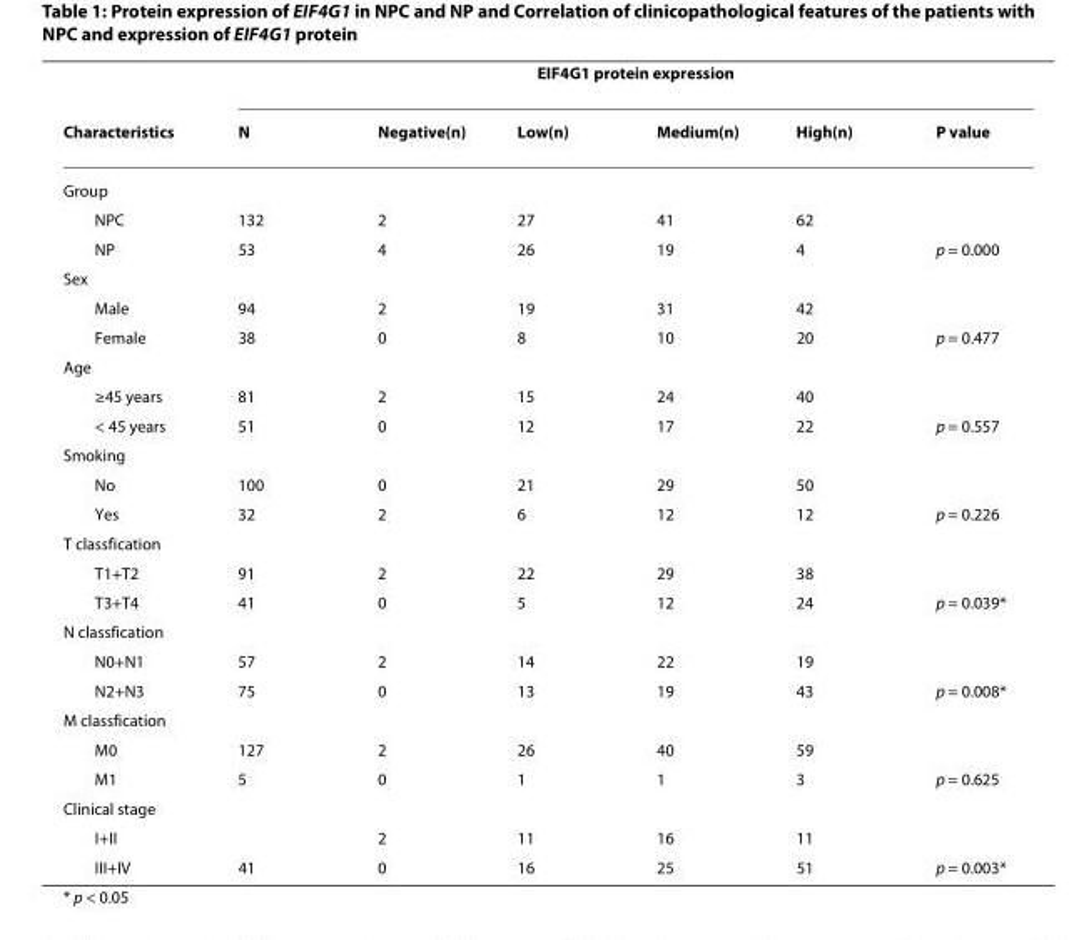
<table><thead><tr><td rowspan="2">Characteristics</td><td colspan="6">EIF4G1 protein expression</td></tr><tr><td>N</td><td>Negative(n)</td><td>Low(n)</td><td>Medium(n)</td><td>High(n)</td><td>P value</td></tr></thead><tbody><tr><td colspan="7">Group</td></tr><tr><td>NPC</td><td>132</td><td>2</td><td>27</td><td>41</td><td>62</td><td></td></tr><tr><td>NP</td><td>53</td><td>4</td><td>26</td><td>19</td><td>4</td><td>p = 0.000</td></tr><tr><td colspan="7">Sex</td></tr><tr><td>Male</td><td>94</td><td>2</td><td>19</td><td>31</td><td>42</td><td></td></tr><tr><td>Female</td><td>38</td><td>0</td><td>8</td><td>10</td><td>20</td><td>p = 0.477</td></tr><tr><td colspan="7">Age</td></tr><tr><td>≥45 years</td><td>81</td><td>2</td><td>15</td><td>24</td><td>40</td><td></td></tr><tr><td>&lt; 45 years</td><td>51</td><td>0</td><td>12</td><td>17</td><td>22</td><td>p = 0.557</td></tr><tr><td colspan="7">Smoking</td></tr><tr><td>No</td><td>100</td><td>0</td><td>21</td><td>29</td><td>50</td><td></td></tr><tr><td>Yes</td><td>32</td><td>2</td><td>6</td><td>12</td><td>12</td><td>p = 0.226</td></tr><tr><td colspan="7">T classfication</td></tr><tr><td>T1+T2</td><td>91</td><td>2</td><td>22</td><td>29</td><td>38</td><td></td></tr><tr><td>T3+T4</td><td>41</td><td>0</td><td>5</td><td>12</td><td>24</td><td>p = 0.039*</td></tr><tr><td colspan="7">N classfication</td></tr><tr><td>N0+N1</td><td>57</td><td>2</td><td>14</td><td>22</td><td>19</td><td></td></tr><tr><td>N2+N3</td><td>75</td><td>0</td><td>13</td><td>19</td><td>43</td><td>p = 0.008*</td></tr><tr><td colspan="7">M classfication</td></tr><tr><td>M0</td><td>127</td><td>2</td><td>26</td><td>40</td><td>59</td><td></td></tr><tr><td>M1</td><td>5</td><td>0</td><td>1</td><td>1</td><td>3</td><td>p = 0.625</td></tr><tr><td colspan="7">Clinical stage</td></tr><tr><td>I+II</td><td></td><td>2</td><td>11</td><td>16</td><td>11</td><td></td></tr><tr><td>III+IV</td><td>41</td><td>0</td><td>16</td><td>25</td><td>51</td><td>p = 0.003*</td></tr></tbody></table>